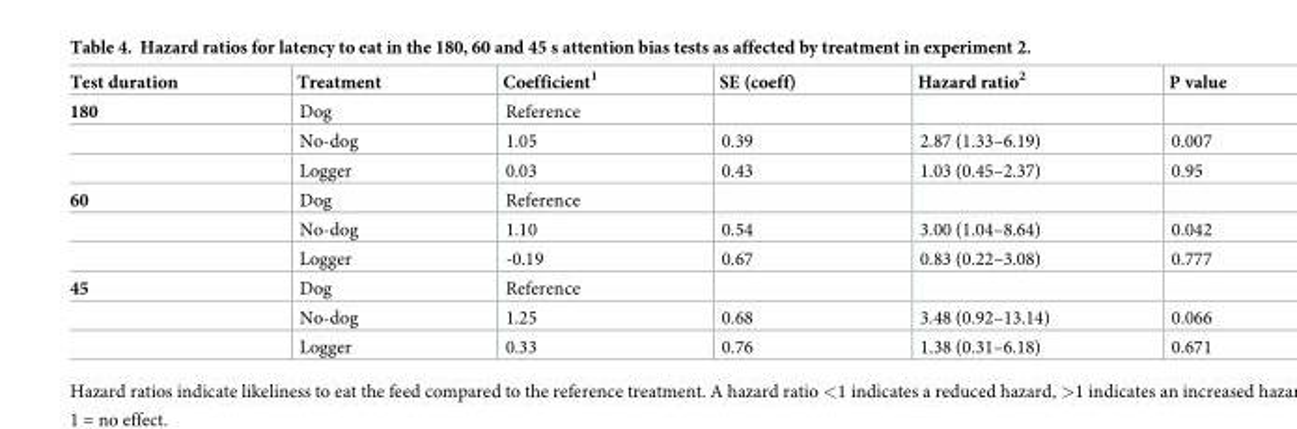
<table><thead><tr><td>Test duration</td><td>Treatment</td><td>Coefficient<sup>1</sup></td><td>SE (coeff)</td><td>Hazard ratio<sup>2</sup></td><td>P value</td></tr></thead><tbody><tr><td rowspan="3">180</td><td>Dog</td><td>Reference</td><td></td><td></td><td></td></tr><tr><td>No-dog</td><td>1.05</td><td>0.39</td><td>2.87 (1.33–6.19)</td><td>0.007</td></tr><tr><td>Logger</td><td>0.03</td><td>0.43</td><td>1.03 (0.45–2.37)</td><td>0.95</td></tr><tr><td rowspan="3">60</td><td>Dog</td><td>Reference</td><td></td><td></td><td></td></tr><tr><td>No-dog</td><td>1.10</td><td>0.54</td><td>3.00 (1.04–8.64)</td><td>0.042</td></tr><tr><td>Logger</td><td>-0.19</td><td>0.67</td><td>0.83 (0.22–3.08)</td><td>0.777</td></tr><tr><td rowspan="3">45</td><td>Dog</td><td>Reference</td><td></td><td></td><td></td></tr><tr><td>No-dog</td><td>1.25</td><td>0.68</td><td>3.48 (0.92–13.14)</td><td>0.066</td></tr><tr><td>Logger</td><td>0.33</td><td>0.76</td><td>1.38 (0.31–6.18)</td><td>0.671</td></tr></tbody></table>